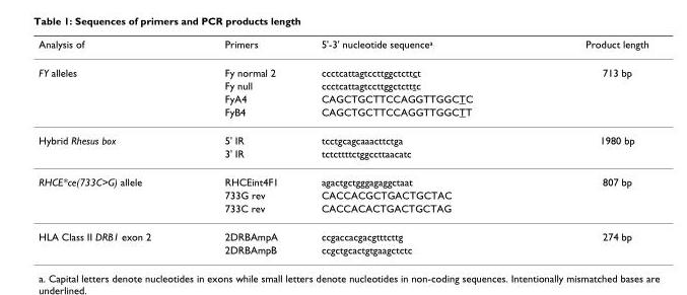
<table><thead><tr><td>Analysis of</td><td>Primers</td><td>5&#x27;-3&#x27; nucleotide sequence<sup>a</sup></td><td>Product length</td></tr></thead><tbody><tr><td rowspan="4">FY alleles</td><td>Fy normal 2</td><td>ccctcattagtccttggctcttct</td><td>713 bp</td></tr><tr><td>Fy null</td><td>ccctcattagtccttggctctttc</td><td></td></tr><tr><td>FyA4</td><td>CAGCTGCTTCCAGGTTGGCTC</td><td></td></tr><tr><td>FyB4</td><td>CAGCTGCTTCCAGGTTGGCTT</td><td></td></tr><tr><td rowspan="2">Hybrid Rhesus box</td><td>5&#x27; IR</td><td>tcctgcagcaaacttctga</td><td>1980 bp</td></tr><tr><td>3&#x27; IR</td><td>tctcttttctggccttaacatc</td><td></td></tr><tr><td rowspan="3">RHCE*ce(733C&gt;G) allele</td><td>RHCEint4F1</td><td>agactgctgggagaggctaat</td><td>807 bp</td></tr><tr><td>733G rev</td><td>CACCACGCTGACTGCTAC</td><td></td></tr><tr><td>733C rev</td><td>CACCACACTGACTGCTAG</td><td></td></tr><tr><td rowspan="2">HLA Class II DRB1 exon 2</td><td>2DRBAmpA</td><td>ccgaccacgacgtttcttg</td><td>274 bp</td></tr><tr><td>2DRBAmpB</td><td>ccgctgcactgtgaagctctc</td><td></td></tr></tbody></table>